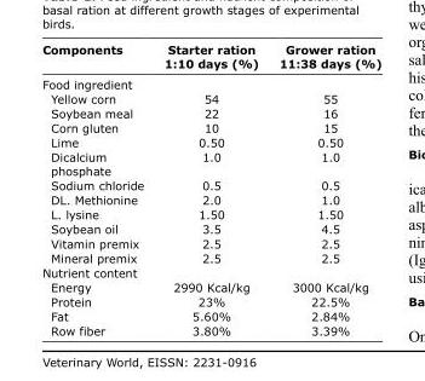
<table><thead><tr><td>Components</td><td>Starter ration 1:10 days (%)</td><td>Grower ration 11:38 days (%)</td></tr></thead><tbody><tr><td colspan="3">Food ingredient</td></tr><tr><td>Yellow corn</td><td>54</td><td>55</td></tr><tr><td>Soybean meal</td><td>22</td><td>16</td></tr><tr><td>Corn gluten</td><td>10</td><td>15</td></tr><tr><td>Lime</td><td>0.50</td><td>0.50</td></tr><tr><td>Dicalcium phosphate</td><td>1.0</td><td>1.0</td></tr><tr><td>Sodium chloride</td><td>0.5</td><td>0.5</td></tr><tr><td>DL. Methionine</td><td>2.0</td><td>1.0</td></tr><tr><td>L. lysine</td><td>1.50</td><td>1.50</td></tr><tr><td>Soybean oil</td><td>3.5</td><td>4.5</td></tr><tr><td>Vitamin premix</td><td>2.5</td><td>2.5</td></tr><tr><td>Mineral premix</td><td>2.5</td><td>2.5</td></tr><tr><td colspan="3">Nutrient content</td></tr><tr><td>Energy</td><td>2990 Kcal/kg</td><td>3000 Kcal/kg</td></tr><tr><td>Protein</td><td>23%</td><td>22.5%</td></tr><tr><td>Fat</td><td>5.60%</td><td>2.84%</td></tr><tr><td>Row fiber</td><td>3.80%</td><td>3.39%</td></tr></tbody></table>